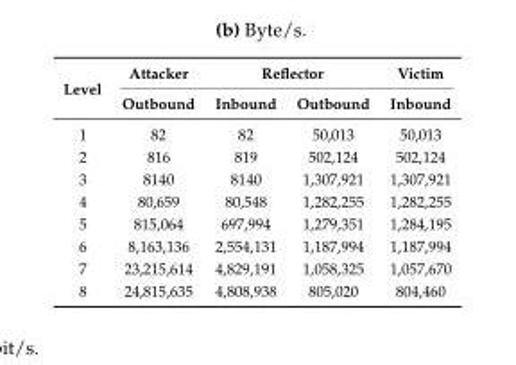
<table><thead><tr><td rowspan="2">Level</td><td rowspan="2">Attacker Outbound</td><td colspan="2">Reflector</td><td rowspan="2">Victim Inbound</td></tr><tr><td>Inbound</td><td>Outbound</td></tr></thead><tbody><tr><td>1</td><td>82</td><td>82</td><td>50,013</td><td>50,013</td></tr><tr><td>2</td><td>816</td><td>819</td><td>502,124</td><td>502,124</td></tr><tr><td>3</td><td>8140</td><td>8140</td><td>1,307,921</td><td>1,307,921</td></tr><tr><td>4</td><td>80,659</td><td>80,548</td><td>1,282,255</td><td>1,282,255</td></tr><tr><td>5</td><td>815,064</td><td>697,994</td><td>1,279,351</td><td>1,284,195</td></tr><tr><td>6</td><td>8,163,136</td><td>2,554,131</td><td>1,187,994</td><td>1,187,994</td></tr><tr><td>7</td><td>23,215,614</td><td>4,829,191</td><td>1,058,325</td><td>1,057,670</td></tr><tr><td>8</td><td>24,815,635</td><td>4,808,938</td><td>805,020</td><td>804,460</td></tr></tbody></table>